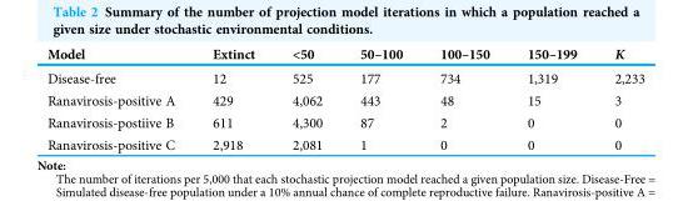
<table><thead><tr><td>Model</td><td>Extinct</td><td>&lt;50</td><td>50–100</td><td>100–150</td><td>150–199</td><td>K</td></tr></thead><tbody><tr><td>Disease-free</td><td>12</td><td>525</td><td>177</td><td>734</td><td>1,319</td><td>2,233</td></tr><tr><td>Ranavirosis-positive A</td><td>429</td><td>4,062</td><td>443</td><td>48</td><td>15</td><td>3</td></tr><tr><td>Ranavirosis-postiive B</td><td>611</td><td>4,300</td><td>87</td><td>2</td><td>0</td><td>0</td></tr><tr><td>Ranavirosis-positive C</td><td>2,918</td><td>2,081</td><td>1</td><td>0</td><td>0</td><td>0</td></tr></tbody></table>